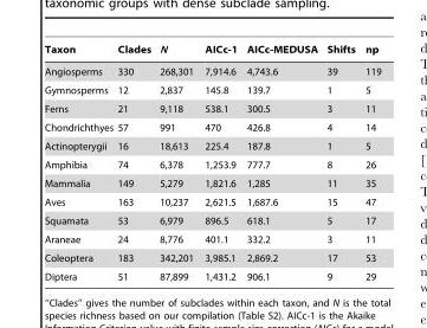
<table><thead><tr><td>Taxon</td><td>Clades</td><td>N</td><td>AICc-1</td><td>AICc-MEDUSA</td><td>Shifts</td><td>np</td></tr></thead><tbody><tr><td>Angiosperms</td><td>330</td><td>268,301</td><td>7,914.6</td><td>4,743.6</td><td>39</td><td>119</td></tr><tr><td>Gymnosperms</td><td>12</td><td>2,837</td><td>145.8</td><td>139.7</td><td>1</td><td>5</td></tr><tr><td>Ferns</td><td>21</td><td>9,118</td><td>538.1</td><td>300.5</td><td>3</td><td>11</td></tr><tr><td>Chondrichthyes</td><td>57</td><td>991</td><td>470</td><td>426.8</td><td>4</td><td>14</td></tr><tr><td>Actinopterygii</td><td>16</td><td>18,613</td><td>225.4</td><td>187.8</td><td>1</td><td>5</td></tr><tr><td>Amphibia</td><td>74</td><td>6,378</td><td>1,253.9</td><td>777.7</td><td>8</td><td>26</td></tr><tr><td>Mammalia</td><td>149</td><td>5,279</td><td>1,821.6</td><td>1,285</td><td>11</td><td>35</td></tr><tr><td>Aves</td><td>163</td><td>10,237</td><td>2,621.5</td><td>1,687.6</td><td>15</td><td>47</td></tr><tr><td>Squamata</td><td>53</td><td>6,979</td><td>896.5</td><td>618.1</td><td>5</td><td>17</td></tr><tr><td>Araneae</td><td>24</td><td>8,776</td><td>401.1</td><td>332.2</td><td>3</td><td>11</td></tr><tr><td>Coleoptera</td><td>183</td><td>342,201</td><td>3,985.1</td><td>2,869.2</td><td>17</td><td>53</td></tr><tr><td>Diptera</td><td>51</td><td>87,899</td><td>1,431.2</td><td>906.1</td><td>9</td><td>29</td></tr></tbody></table>